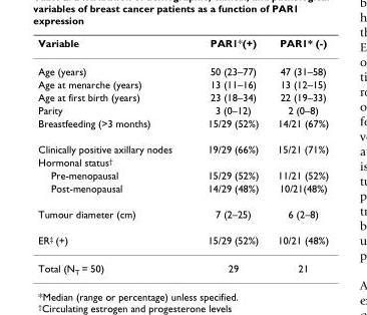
<table><thead><tr><td>Variable</td><td>PAR1*(+)</td><td>PAR1* (-)</td></tr></thead><tbody><tr><td>Age (years)</td><td>50 (23–77)</td><td>47 (31–58)</td></tr><tr><td>Age at menarche (years)</td><td>13 (11–16)</td><td>13 (12–15)</td></tr><tr><td>Age at first birth (years)</td><td>23 (18–34)</td><td>22 (19–33)</td></tr><tr><td>Parity</td><td>3 (0–12)</td><td>2 (0–8)</td></tr><tr><td>Breastfeeding (&gt;3 months)</td><td>15/29 (52%)</td><td>14/21 (67%)</td></tr><tr><td>Clinically positive axillary nodes</td><td>19/29 (66%)</td><td>15/21 (71%)</td></tr><tr><td colspan="3">Hormonal status<sup>†</sup></td></tr><tr><td>Pre-menopausal</td><td>15/29 (52%)</td><td>11/21 (52%)</td></tr><tr><td>Post-menopausal</td><td>14/29 (48%)</td><td>10/21(48%)</td></tr><tr><td>Tumour diameter (cm)</td><td>7 (2–25)</td><td>6 (2–8)</td></tr><tr><td>ER<sup>‡</sup> (+)</td><td>15/29 (52%)</td><td>10/21 (48%)</td></tr><tr><td>Total (N<sub>T</sub> = 50)</td><td>29</td><td>21</td></tr></tbody></table>